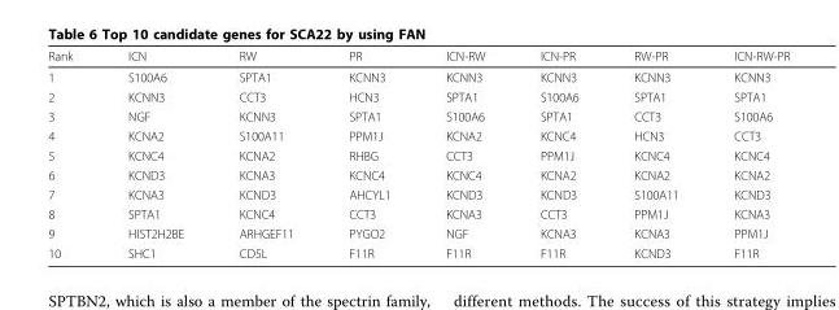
<table><thead><tr><td>Rank</td><td>ICN</td><td>RW</td><td>PR</td><td>ICN-RW</td><td>ICN-PR</td><td>RW-PR</td><td>ICN-RW-PR</td></tr></thead><tbody><tr><td>1</td><td>S100A6</td><td>SPTA1</td><td>KCNN3</td><td>KCNN3</td><td>KCNN3</td><td>KCNN3</td><td>KCNN3</td></tr><tr><td>2</td><td>KCNN3</td><td>CCT3</td><td>HCN3</td><td>SPTA1</td><td>S100A6</td><td>SPTA1</td><td>SPTA1</td></tr><tr><td>3</td><td>NGF</td><td>KCNN3</td><td>SPTA1</td><td>S100A6</td><td>SPTA1</td><td>CCT3</td><td>S100A6</td></tr><tr><td>4</td><td>KCNA2</td><td>S100A11</td><td>PPM1J</td><td>KCNA2</td><td>KCNC4</td><td>HCN3</td><td>CCT3</td></tr><tr><td>5</td><td>KCNC4</td><td>KCNA2</td><td>RHBG</td><td>CCT3</td><td>PPM1J</td><td>KCNC4</td><td>KCNC4</td></tr><tr><td>6</td><td>KCND3</td><td>KCNA3</td><td>KCNC4</td><td>KCNC4</td><td>KCNA2</td><td>KCNA2</td><td>KCNA2</td></tr><tr><td>7</td><td>KCNA3</td><td>KCND3</td><td>AHCYL1</td><td>KCND3</td><td>KCND3</td><td>S100A11</td><td>KCND3</td></tr><tr><td>8</td><td>SPTA1</td><td>KCNC4</td><td>CCT3</td><td>KCNA3</td><td>CCT3</td><td>PPM1J</td><td>KCNA3</td></tr><tr><td>9</td><td>HIST2H2BE</td><td>ARHGEF11</td><td>PYGO2</td><td>NGF</td><td>KCNA3</td><td>KCNA3</td><td>PPM1J</td></tr><tr><td>10</td><td>SHC1</td><td>CD5L</td><td>F11R</td><td>F11R</td><td>F11R</td><td>KCND3</td><td>F11R</td></tr></tbody></table>